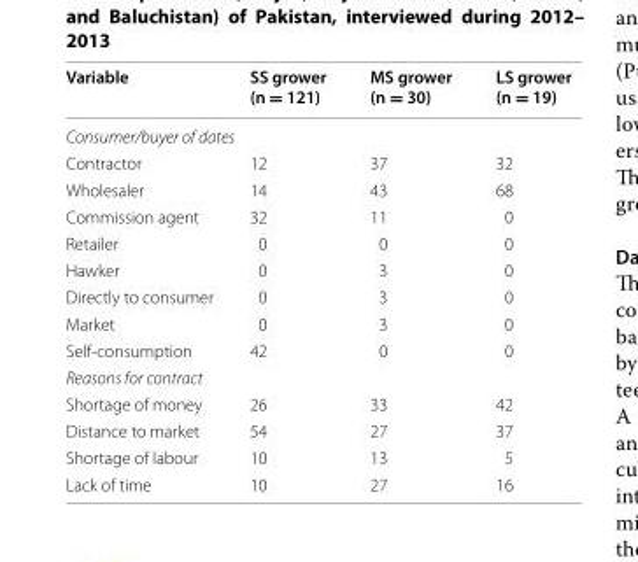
<table><thead><tr><td>Variable</td><td>SS grower (n = 121)</td><td>MS grower (n = 30)</td><td>LS grower (n = 19)</td></tr></thead><tbody><tr><td colspan="4">Consumer/buyer of dates</td></tr><tr><td>Contractor</td><td>12</td><td>37</td><td>32</td></tr><tr><td>Wholesaler</td><td>14</td><td>43</td><td>68</td></tr><tr><td>Commission agent</td><td>32</td><td>11</td><td>0</td></tr><tr><td>Retailer</td><td>0</td><td>0</td><td>0</td></tr><tr><td>Hawker</td><td>0</td><td>3</td><td>0</td></tr><tr><td>Directly to consumer</td><td>0</td><td>3</td><td>0</td></tr><tr><td>Market</td><td>0</td><td>3</td><td>0</td></tr><tr><td>Self-consumption</td><td>42</td><td>0</td><td>0</td></tr><tr><td colspan="4">Reasons for contract</td></tr><tr><td>Shortage of money</td><td>26</td><td>33</td><td>42</td></tr><tr><td>Distance to market</td><td>54</td><td>27</td><td>37</td></tr><tr><td>Shortage of labour</td><td>10</td><td>13</td><td>5</td></tr><tr><td>Lack of time</td><td>10</td><td>27</td><td>16</td></tr></tbody></table>